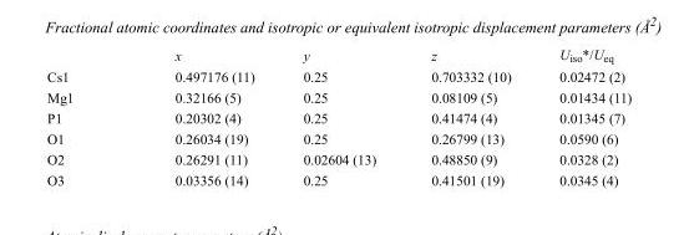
<table><thead><tr><td></td><td>x</td><td>y</td><td>z</td><td>U<sub>iso</sub>*/U<sub>eq</sub></td></tr></thead><tbody><tr><td>Cs1</td><td>0.497176 (11)</td><td>0.25</td><td>0.703332 (10)</td><td>0.02472 (2)</td></tr><tr><td>Mg1</td><td>0.32166 (5)</td><td>0.25</td><td>0.08109 (5)</td><td>0.01434 (11)</td></tr><tr><td>P1</td><td>0.20302 (4)</td><td>0.25</td><td>0.41474 (4)</td><td>0.01345 (7)</td></tr><tr><td>O1</td><td>0.26034 (19)</td><td>0.25</td><td>0.26799 (13)</td><td>0.0590 (6)</td></tr><tr><td>O2</td><td>0.26291 (11)</td><td>0.02604 (13)</td><td>0.48850 (9)</td><td>0.0328 (2)</td></tr><tr><td>O3</td><td>0.03356 (14)</td><td>0.25</td><td>0.41501 (19)</td><td>0.0345 (4)</td></tr></tbody></table>